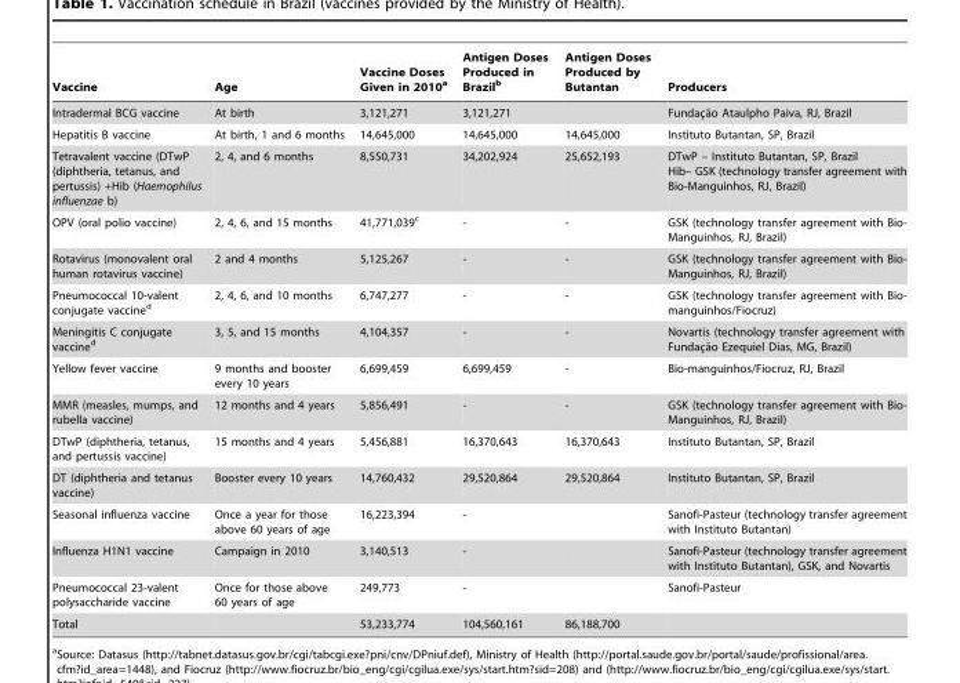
<table><thead><tr><td>Vaccine</td><td>Age</td><td>Vaccine Doses Given in 2010<sup>a</sup></td><td>Antigen Doses Produced in Brazil<sup>b</sup></td><td>Antigen Doses Produced by Butantan</td><td>Producers</td></tr></thead><tbody><tr><td>Intradermal BCG vaccine</td><td>At birth</td><td>3,121,271</td><td>3,121,271</td><td></td><td>Fundac¸a˜o Ataulpho Paiva, RJ, Brazil</td></tr><tr><td>Hepatitis B vaccine</td><td>At birth, 1 and 6 months</td><td>14,645,000</td><td>14,645,000</td><td>14,645,000</td><td>Instituto Butantan, SP, Brazil</td></tr><tr><td>Tetravalent vaccine (DTwP (diphtheria, tetanus, and pertussis) +Hib (Haemophilus influenzae b)</td><td>2, 4, and 6 months</td><td>8,550,731</td><td>34,202,924</td><td>25,652,193</td><td>DTwP – Instituto Butantan, SP, Brazil Hib– GSK (technology transfer agreement with Bio-Manguinhos, RJ, Brazil)</td></tr><tr><td>OPV (oral polio vaccine)</td><td>2, 4, 6, and 15 months</td><td>41,771,039<sup>c</sup></td><td>-</td><td>-</td><td>GSK (technology transfer agreement with Bio- Manguinhos, RJ, Brazil)</td></tr><tr><td>Rotavirus (monovalent oral human rotavirus vaccine)</td><td>2 and 4 months</td><td>5,125,267</td><td>-</td><td>-</td><td>GSK (technology transfer agreement with Bio- Manguinhos, RJ, Brazil)</td></tr><tr><td>Pneumococcal 10-valent conjugate vaccine<sup>d</sup></td><td>2, 4, 6, and 10 months</td><td>6,747,277</td><td>-</td><td>-</td><td>GSK (technology transfer agreement with Bio- manguinhos/Fiocruz)</td></tr><tr><td>Meningitis C conjugate vaccine<sup>d</sup></td><td>3, 5, and 15 months</td><td>4,104,357</td><td>-</td><td>-</td><td>Novartis (technology transfer agreement with Fundac¸a˜o Ezequiel Dias, MG, Brazil)</td></tr><tr><td>Yellow fever vaccine</td><td>9 months and booster every 10 years</td><td>6,699,459</td><td>6,699,459</td><td>-</td><td>Bio-manguinhos/Fiocruz, RJ, Brazil</td></tr><tr><td>MMR (measles, mumps, and rubella vaccine)</td><td>12 months and 4 years</td><td>5,856,491</td><td>-</td><td>-</td><td>GSK (technology transfer agreement with Bio- Manguinhos, RJ, Brazil)</td></tr><tr><td>DTwP (diphtheria, tetanus, and pertussis vaccine)</td><td>15 months and 4 years</td><td>5,456,881</td><td>16,370,643</td><td>16,370,643</td><td>Instituto Butantan, SP, Brazil</td></tr><tr><td>DT (diphtheria and tetanus vaccine)</td><td>Booster every 10 years</td><td>14,760,432</td><td>29,520,864</td><td>29,520,864</td><td>Instituto Butantan, SP, Brazil</td></tr><tr><td>Seasonal influenza vaccine</td><td>Once a year for those above 60 years of age</td><td>16,223,394</td><td>-</td><td></td><td>Sanofi-Pasteur (technology transfer agreement with Instituto Butantan)</td></tr><tr><td>Influenza H1N1 vaccine</td><td>Campaign in 2010</td><td>3,140,513</td><td>-</td><td></td><td>Sanofi-Pasteur (technology transfer agreement with Instituto Butantan), GSK, and Novartis</td></tr><tr><td>Pneumococcal 23-valent polysaccharide vaccine</td><td>Once for those above 60 years of age</td><td>249,773</td><td>-</td><td></td><td>Sanofi-Pasteur</td></tr><tr><td>Total</td><td></td><td>53,233,774</td><td>104,560,161</td><td>86,188,700</td><td></td></tr></tbody></table>